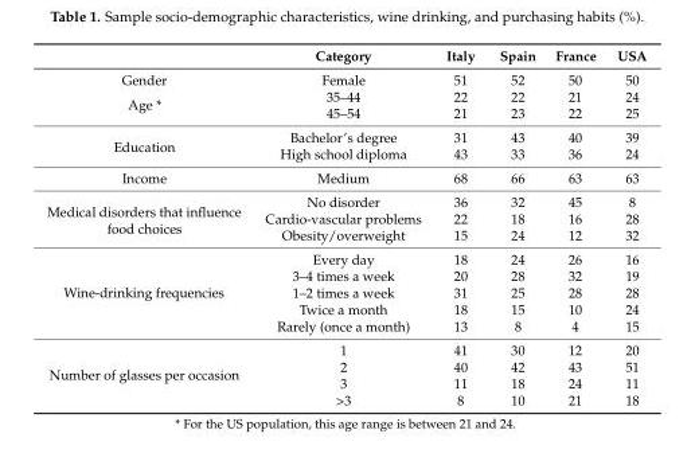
<table><thead><tr><td></td><td>Category</td><td>Italy</td><td>Spain</td><td>France</td><td>USA</td></tr></thead><tbody><tr><td>Gender</td><td>Female</td><td>51</td><td>52</td><td>50</td><td>50</td></tr><tr><td rowspan="2">Age *</td><td>35–44</td><td>22</td><td>22</td><td>21</td><td>24</td></tr><tr><td>45–54</td><td>21</td><td>23</td><td>22</td><td>25</td></tr><tr><td rowspan="2">Education</td><td>Bachelor’s degree</td><td>31</td><td>43</td><td>40</td><td>39</td></tr><tr><td>High school diploma</td><td>43</td><td>33</td><td>36</td><td>24</td></tr><tr><td>Income</td><td>Medium</td><td>68</td><td>66</td><td>63</td><td>63</td></tr><tr><td rowspan="3">Medical disorders that influence food choices</td><td>No disorder</td><td>36</td><td>32</td><td>45</td><td>8</td></tr><tr><td>Cardio-vascular problems</td><td>22</td><td>18</td><td>16</td><td>28</td></tr><tr><td>Obesity/overweight</td><td>15</td><td>24</td><td>12</td><td>32</td></tr><tr><td rowspan="5">Wine-drinking frequencies</td><td>Every day</td><td>18</td><td>24</td><td>26</td><td>16</td></tr><tr><td>3–4 times a week</td><td>20</td><td>28</td><td>32</td><td>19</td></tr><tr><td>1–2 times a week</td><td>31</td><td>25</td><td>28</td><td>28</td></tr><tr><td>Twice a month</td><td>18</td><td>15</td><td>10</td><td>24</td></tr><tr><td>Rarely (once a month)</td><td>13</td><td>8</td><td>4</td><td>15</td></tr><tr><td rowspan="4">Number of glasses per occasion</td><td>1</td><td>41</td><td>30</td><td>12</td><td>20</td></tr><tr><td>2</td><td>40</td><td>42</td><td>43</td><td>51</td></tr><tr><td>3</td><td>11</td><td>18</td><td>24</td><td>11</td></tr><tr><td>&gt;3</td><td>8</td><td>10</td><td>21</td><td>18</td></tr></tbody></table>